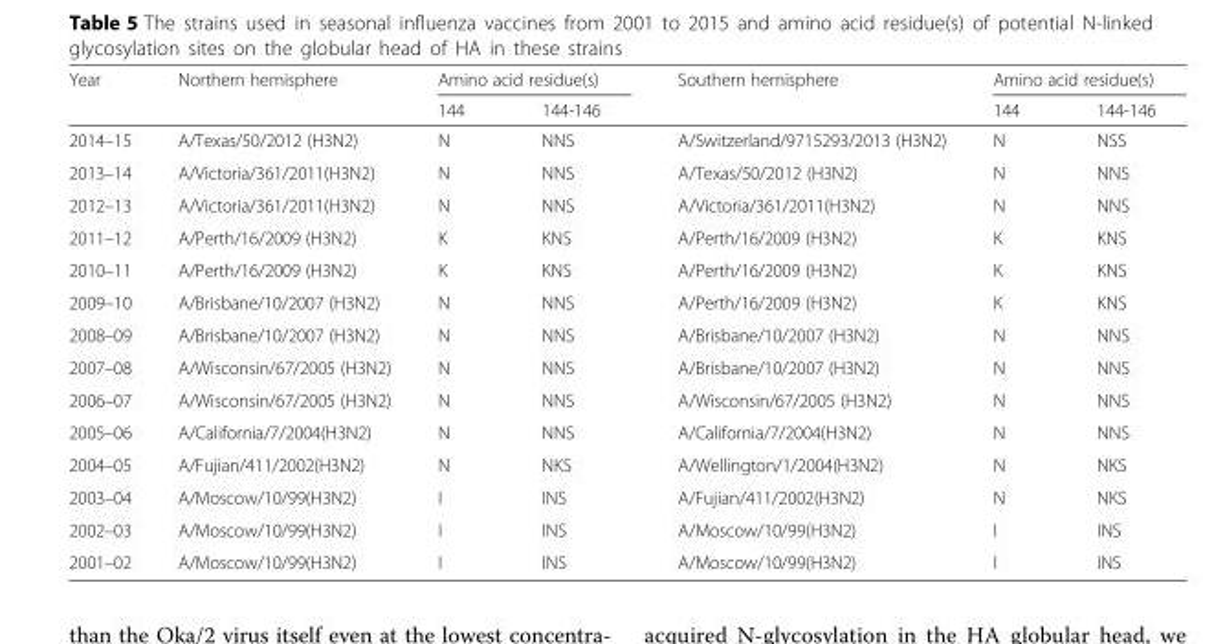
<table><thead><tr><td rowspan="2">Year</td><td rowspan="2">Northern hemisphere</td><td colspan="2">Amino acid residue(s)</td><td rowspan="2">Southern hemisphere</td><td colspan="2">Amino acid residue(s)</td></tr><tr><td>144</td><td>144-146</td><td>144</td><td>144-146</td></tr></thead><tbody><tr><td>2014–15</td><td>A/Texas/50/2012 (H3N2)</td><td>N</td><td>NNS</td><td>A/Switzerland/9715293/2013 (H3N2)</td><td>N</td><td>NSS</td></tr><tr><td>2013–14</td><td>A/Victoria/361/2011(H3N2)</td><td>N</td><td>NNS</td><td>A/Texas/50/2012 (H3N2)</td><td>N</td><td>NNS</td></tr><tr><td>2012–13</td><td>A/Victoria/361/2011(H3N2)</td><td>N</td><td>NNS</td><td>A/Victoria/361/2011(H3N2)</td><td>N</td><td>NNS</td></tr><tr><td>2011–12</td><td>A/Perth/16/2009 (H3N2)</td><td>K</td><td>KNS</td><td>A/Perth/16/2009 (H3N2)</td><td>K</td><td>KNS</td></tr><tr><td>2010–11</td><td>A/Perth/16/2009 (H3N2)</td><td>K</td><td>KNS</td><td>A/Perth/16/2009 (H3N2)</td><td>K</td><td>KNS</td></tr><tr><td>2009–10</td><td>A/Brisbane/10/2007 (H3N2)</td><td>N</td><td>NNS</td><td>A/Perth/16/2009 (H3N2)</td><td>K</td><td>KNS</td></tr><tr><td>2008–09</td><td>A/Brisbane/10/2007 (H3N2)</td><td>N</td><td>NNS</td><td>A/Brisbane/10/2007 (H3N2)</td><td>N</td><td>NNS</td></tr><tr><td>2007–08</td><td>A/Wisconsin/67/2005 (H3N2)</td><td>N</td><td>NNS</td><td>A/Brisbane/10/2007 (H3N2)</td><td>N</td><td>NNS</td></tr><tr><td>2006–07</td><td>A/Wisconsin/67/2005 (H3N2)</td><td>N</td><td>NNS</td><td>A/Wisconsin/67/2005 (H3N2)</td><td>N</td><td>NNS</td></tr><tr><td>2005–06</td><td>A/California/7/2004(H3N2)</td><td>N</td><td>NNS</td><td>A/California/7/2004(H3N2)</td><td>N</td><td>NNS</td></tr><tr><td>2004–05</td><td>A/Fujian/411/2002(H3N2)</td><td>N</td><td>NKS</td><td>A/Wellington/1/2004(H3N2)</td><td>N</td><td>NKS</td></tr><tr><td>2003–04</td><td>A/Moscow/10/99(H3N2)</td><td>I</td><td>INS</td><td>A/Fujian/411/2002(H3N2)</td><td>N</td><td>NKS</td></tr><tr><td>2002–03</td><td>A/Moscow/10/99(H3N2)</td><td>I</td><td>INS</td><td>A/Moscow/10/99(H3N2)</td><td>I</td><td>INS</td></tr><tr><td>2001–02</td><td>A/Moscow/10/99(H3N2)</td><td>I</td><td>INS</td><td>A/Moscow/10/99(H3N2)</td><td>I</td><td>INS</td></tr></tbody></table>